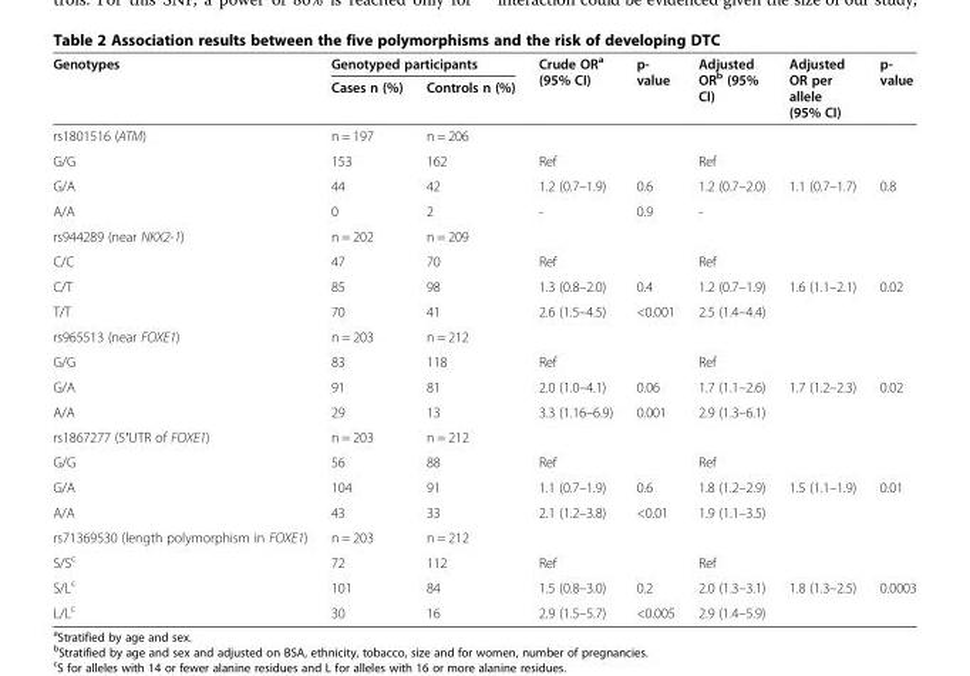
<table><thead><tr><td rowspan="2">Genotypes</td><td colspan="2">Genotyped participants</td><td rowspan="2">Crude OR<sup>a</sup> (95% CI)</td><td rowspan="2">p- value</td><td rowspan="2">Adjusted OR<sup>b</sup> (95% CI)</td><td rowspan="2">Adjusted OR per allele (95% CI)</td><td rowspan="2">p- value</td></tr><tr><td>Cases n (%)</td><td>Controls n (%)</td></tr></thead><tbody><tr><td>rs1801516 (ATM)</td><td>n = 197</td><td>n = 206</td><td></td><td></td><td></td><td></td><td></td></tr><tr><td>G/G</td><td>153</td><td>162</td><td>Ref</td><td></td><td>Ref</td><td></td><td></td></tr><tr><td>G/A</td><td>44</td><td>42</td><td>1.2 (0.7–1.9)</td><td>0.6</td><td>1.2 (0.7–2.0)</td><td>1.1 (0.7–1.7)</td><td>0.8</td></tr><tr><td>A/A</td><td>0</td><td>2</td><td>-</td><td>0.9</td><td>-</td><td></td><td></td></tr><tr><td>rs944289 (near NKX2-1)</td><td>n = 202</td><td>n = 209</td><td></td><td></td><td></td><td></td><td></td></tr><tr><td>C/C</td><td>47</td><td>70</td><td>Ref</td><td></td><td>Ref</td><td></td><td></td></tr><tr><td>C/T</td><td>85</td><td>98</td><td>1.3 (0.8–2.0)</td><td>0.4</td><td>1.2 (0.7–1.9)</td><td>1.6 (1.1–2.1)</td><td>0.02</td></tr><tr><td>T/T</td><td>70</td><td>41</td><td>2.6 (1.5–4.5)</td><td>&lt;0.001</td><td>2.5 (1.4–4.4)</td><td></td><td></td></tr><tr><td>rs965513 (near FOXE1)</td><td>n = 203</td><td>n = 212</td><td></td><td></td><td></td><td></td><td></td></tr><tr><td>G/G</td><td>83</td><td>118</td><td>Ref</td><td></td><td>Ref</td><td></td><td></td></tr><tr><td>G/A</td><td>91</td><td>81</td><td>2.0 (1.0–4.1)</td><td>0.06</td><td>1.7 (1.1–2.6)</td><td>1.7 (1.2–2.3)</td><td>0.02</td></tr><tr><td>A/A</td><td>29</td><td>13</td><td>3.3 (1.16–6.9)</td><td>0.001</td><td>2.9 (1.3–6.1)</td><td></td><td></td></tr><tr><td>rs1867277 (5′UTR of FOXE1)</td><td>n = 203</td><td>n = 212</td><td></td><td></td><td></td><td></td><td></td></tr><tr><td>G/G</td><td>56</td><td>88</td><td>Ref</td><td></td><td>Ref</td><td></td><td></td></tr><tr><td>G/A</td><td>104</td><td>91</td><td>1.1 (0.7–1.9)</td><td>0.6</td><td>1.8 (1.2–2.9)</td><td>1.5 (1.1–1.9)</td><td>0.01</td></tr><tr><td>A/A</td><td>43</td><td>33</td><td>2.1 (1.2–3.8)</td><td>&lt;0.01</td><td>1.9 (1.1–3.5)</td><td></td><td></td></tr><tr><td>rs71369530 (length polymorphism in FOXE1)</td><td>n = 203</td><td>n = 212</td><td></td><td></td><td></td><td></td><td></td></tr><tr><td>S/S<sup>c</sup></td><td>72</td><td>112</td><td>Ref</td><td></td><td>Ref</td><td></td><td></td></tr><tr><td>S/L<sup>c</sup></td><td>101</td><td>84</td><td>1.5 (0.8–3.0)</td><td>0.2</td><td>2.0 (1.3–3.1)</td><td>1.8 (1.3–2.5)</td><td>0.0003</td></tr><tr><td>L/L<sup>c</sup></td><td>30</td><td>16</td><td>2.9 (1.5–5.7)</td><td>&lt;0.005</td><td>2.9 (1.4–5.9)</td><td></td><td></td></tr></tbody></table>